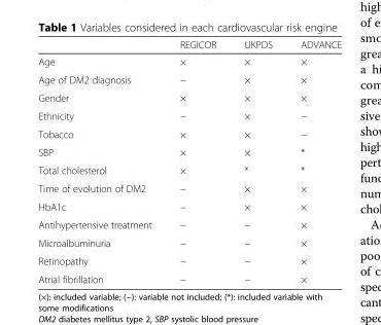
<table><thead><tr><td></td><td>REGICOR</td><td>UKPDS</td><td>ADVANCE</td></tr></thead><tbody><tr><td>Age</td><td>×</td><td>×</td><td>×</td></tr><tr><td>Age of DM2 diagnosis</td><td>−</td><td>×</td><td>×</td></tr><tr><td>Gender</td><td>×</td><td>×</td><td>×</td></tr><tr><td>Ethnicity</td><td>−</td><td>×</td><td>−</td></tr><tr><td>Tobacco</td><td>×</td><td>×</td><td>−</td></tr><tr><td>SBP</td><td>×</td><td>×</td><td>*</td></tr><tr><td>Total cholesterol</td><td>×</td><td>*</td><td>*</td></tr><tr><td>Time of evolution of DM2</td><td>−</td><td>×</td><td>×</td></tr><tr><td>HbA1c</td><td>−</td><td>×</td><td>×</td></tr><tr><td>Antihypertensive treatment</td><td>−</td><td>−</td><td>×</td></tr><tr><td>Microalbuminuria</td><td>−</td><td>−</td><td>×</td></tr><tr><td>Retinopathy</td><td>−</td><td>−</td><td>×</td></tr><tr><td>Atrial fibrillation</td><td>−</td><td>−</td><td>×</td></tr></tbody></table>